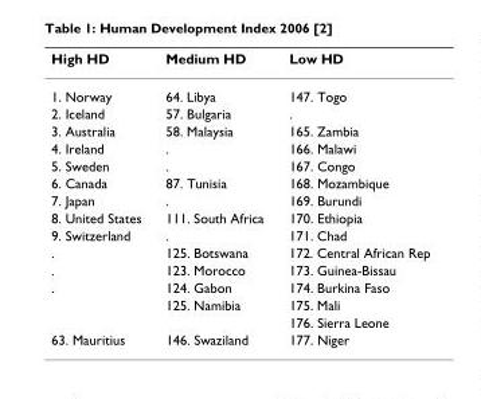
<table><thead><tr><td>High HD</td><td>Medium HD</td><td>Low HD</td></tr></thead><tbody><tr><td>1. Norway</td><td>64. Libya</td><td>147. Togo</td></tr><tr><td>2. Iceland</td><td>57. Bulgaria</td><td>.</td></tr><tr><td>3. Australia</td><td>58. Malaysia</td><td>165. Zambia</td></tr><tr><td>4. Ireland</td><td>.</td><td>166. Malawi</td></tr><tr><td>5. Sweden</td><td>.</td><td>167. Congo</td></tr><tr><td>6. Canada</td><td>87. Tunisia</td><td>168. Mozambique</td></tr><tr><td>7. Japan</td><td>.</td><td>169. Burundi</td></tr><tr><td>8. United States</td><td>111. South Africa</td><td>170. Ethiopia</td></tr><tr><td>9. Switzerland</td><td>.</td><td>171. Chad</td></tr><tr><td>.</td><td>125. Botswana</td><td>172. Central African Rep</td></tr><tr><td>.</td><td>123. Morocco</td><td>173. Guinea-Bissau</td></tr><tr><td rowspan="3">.</td><td>124. Gabon</td><td>174. Burkina Faso</td></tr><tr><td>125. Namibia</td><td>175. Mali</td></tr><tr><td></td><td>176. Sierra Leone</td></tr><tr><td>63. Mauritius</td><td>146. Swaziland</td><td>177. Niger</td></tr></tbody></table>